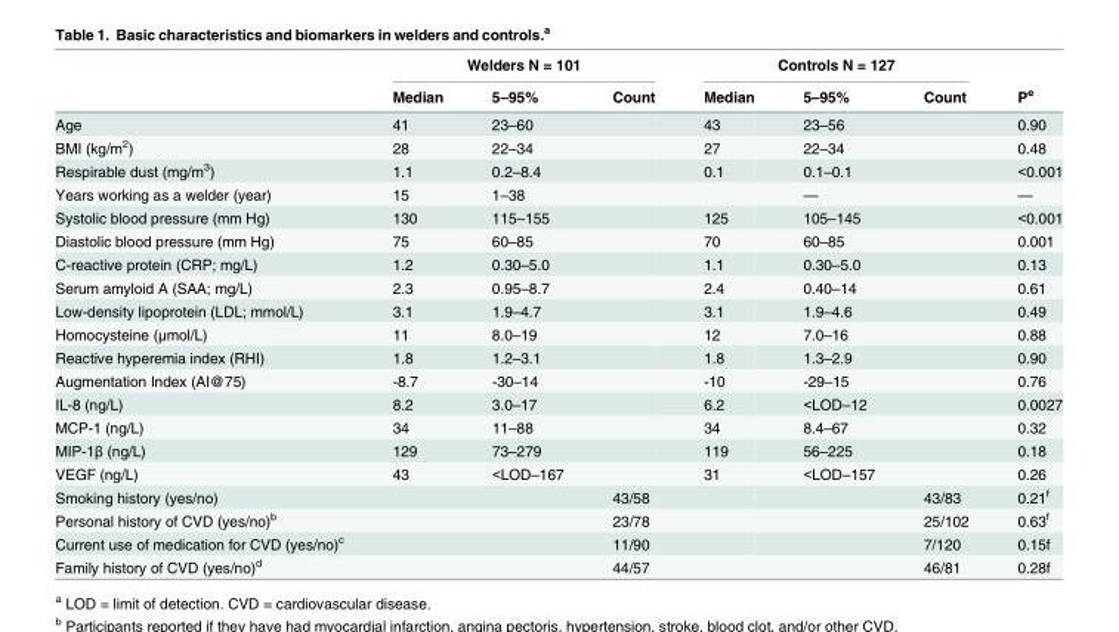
<table><thead><tr><td rowspan="2"></td><td colspan="3">Welders N = 101</td><td colspan="3">Controls N = 127</td><td rowspan="2">P<sup>e</sup></td></tr><tr><td>Median</td><td>5–95%</td><td>Count</td><td>Median</td><td>5–95%</td><td>Count</td></tr></thead><tbody><tr><td>Age</td><td>41</td><td>23–60</td><td></td><td>43</td><td>23–56</td><td></td><td>0.90</td></tr><tr><td>BMI (kg/m<sup>2</sup>)</td><td>28</td><td>22–34</td><td></td><td>27</td><td>22–34</td><td></td><td>0.48</td></tr><tr><td>Respirable dust (mg/m<sup>3</sup>)</td><td>1.1</td><td>0.2–8.4</td><td></td><td>0.1</td><td>0.1–0.1</td><td></td><td>&lt;0.001</td></tr><tr><td>Years working as a welder (year)</td><td>15</td><td>1–38</td><td></td><td></td><td>—</td><td></td><td>—</td></tr><tr><td>Systolic blood pressure (mm Hg)</td><td>130</td><td>115–155</td><td></td><td>125</td><td>105–145</td><td></td><td>&lt;0.001</td></tr><tr><td>Diastolic blood pressure (mm Hg)</td><td>75</td><td>60–85</td><td></td><td>70</td><td>60–85</td><td></td><td>0.001</td></tr><tr><td>C-reactive protein (CRP; mg/L)</td><td>1.2</td><td>0.30–5.0</td><td></td><td>1.1</td><td>0.30–5.0</td><td></td><td>0.13</td></tr><tr><td>Serum amyloid A (SAA; mg/L)</td><td>2.3</td><td>0.95–8.7</td><td></td><td>2.4</td><td>0.40–14</td><td></td><td>0.61</td></tr><tr><td>Low-density lipoprotein (LDL; mmol/L)</td><td>3.1</td><td>1.9–4.7</td><td></td><td>3.1</td><td>1.9–4.6</td><td></td><td>0.49</td></tr><tr><td>Homocysteine (μmol/L)</td><td>11</td><td>8.0–19</td><td></td><td>12</td><td>7.0–16</td><td></td><td>0.88</td></tr><tr><td>Reactive hyperemia index (RHI)</td><td>1.8</td><td>1.2–3.1</td><td></td><td>1.8</td><td>1.3–2.9</td><td></td><td>0.90</td></tr><tr><td>Augmentation Index (AI@75)</td><td>-8.7</td><td>-30–14</td><td></td><td>-10</td><td>-29–15</td><td></td><td>0.76</td></tr><tr><td>IL-8 (ng/L)</td><td>8.2</td><td>3.0–17</td><td></td><td>6.2</td><td>&lt;LOD–12</td><td></td><td>0.0027</td></tr><tr><td>MCP-1 (ng/L)</td><td>34</td><td>11–88</td><td></td><td>34</td><td>8.4–67</td><td></td><td>0.32</td></tr><tr><td>MIP-1β (ng/L)</td><td>129</td><td>73–279</td><td></td><td>119</td><td>56–225</td><td></td><td>0.18</td></tr><tr><td>VEGF (ng/L)</td><td>43</td><td>&lt;LOD–167</td><td></td><td>31</td><td>&lt;LOD–157</td><td></td><td>0.26</td></tr><tr><td>Smoking history (yes/no)</td><td></td><td></td><td>43/58</td><td></td><td></td><td>43/83</td><td>0.21<sup>f</sup></td></tr><tr><td>Personal history of CVD (yes/no)<sup>b</sup></td><td></td><td></td><td>23/78</td><td></td><td></td><td>25/102</td><td>0.63<sup>f</sup></td></tr><tr><td>Current use of medication for CVD (yes/no)<sup>c</sup></td><td></td><td></td><td>11/90</td><td></td><td></td><td>7/120</td><td>0.15f</td></tr><tr><td>Family history of CVD (yes/no)<sup>d</sup></td><td></td><td></td><td>44/57</td><td></td><td></td><td>46/81</td><td>0.28f</td></tr></tbody></table>